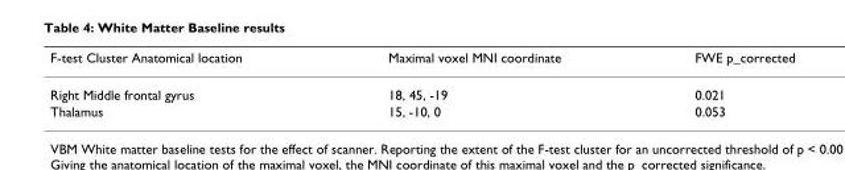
<table><thead><tr><td>F-test Cluster Anatomical location</td><td>Maximal voxel MNI coordinate</td><td>FWE p_corrected</td></tr></thead><tbody><tr><td>Right Middle frontal gyrus</td><td>18, 45, -19</td><td>0.021</td></tr><tr><td>Thalamus</td><td>15, -10, 0</td><td>0.053</td></tr></tbody></table>